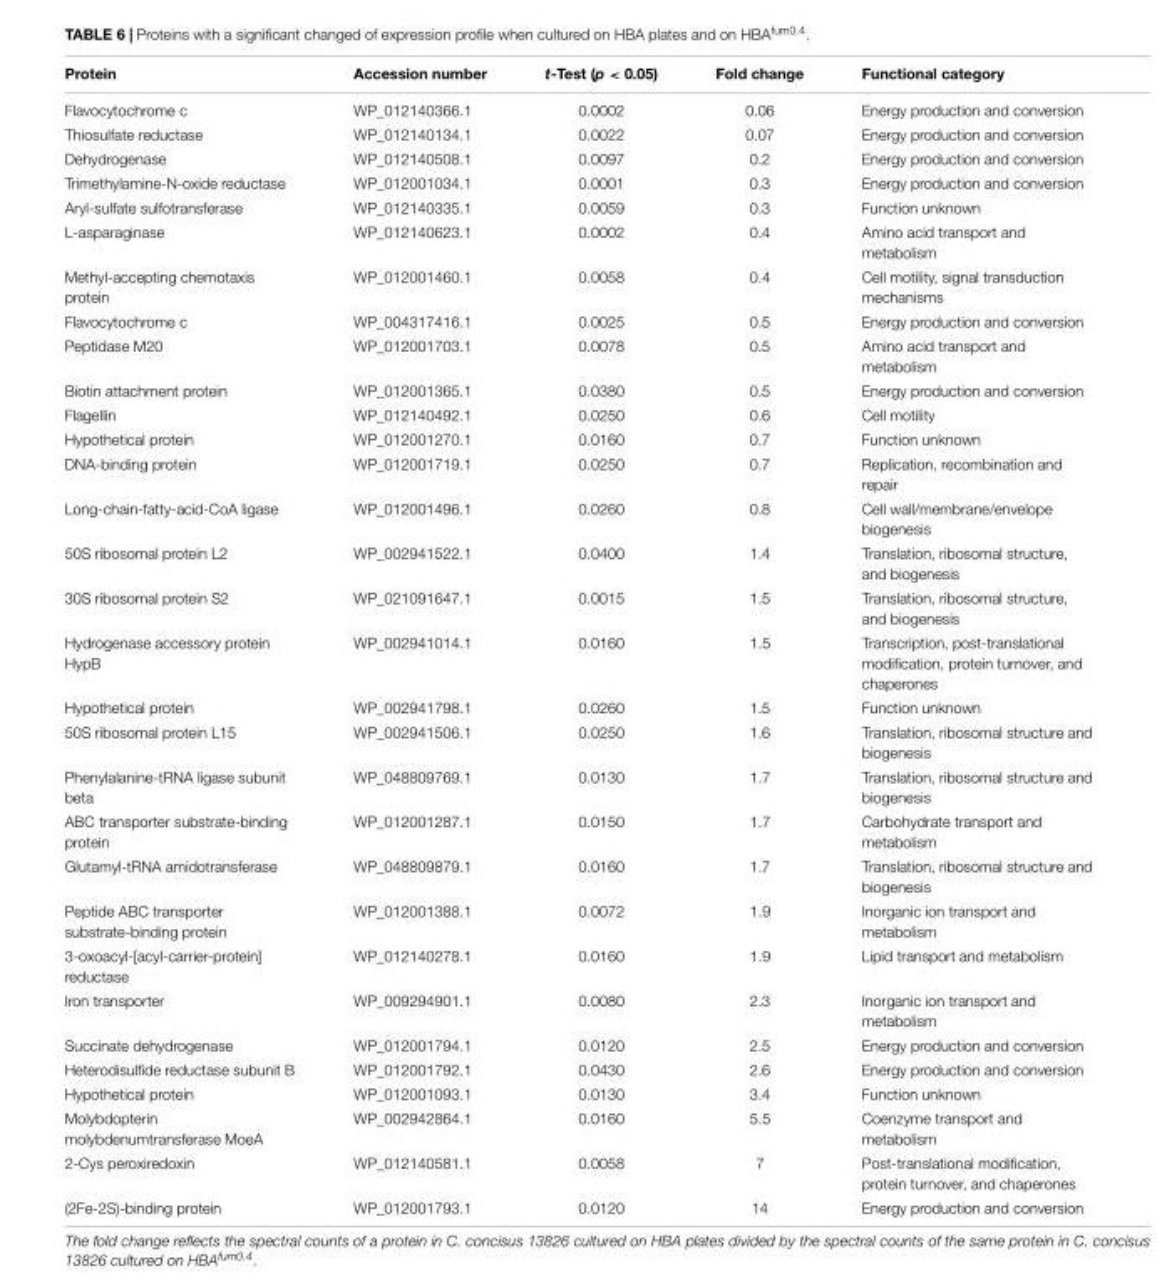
<table><thead><tr><td>Protein</td><td>Accession number</td><td>t-Test (p &lt; 0.05)</td><td>Fold change</td><td>Functional category</td></tr></thead><tbody><tr><td>Flavocytochrome c</td><td>WP_012140366.1</td><td>0.0002</td><td>0.06</td><td>Energy production and conversion</td></tr><tr><td>Thiosulfate reductase</td><td>WP_012140134.1</td><td>0.0022</td><td>0.07</td><td>Energy production and conversion</td></tr><tr><td>Dehydrogenase</td><td>WP_012140508.1</td><td>0.0097</td><td>0.2</td><td>Energy production and conversion</td></tr><tr><td>Trimethylamine-N-oxide reductase</td><td>WP_012001034.1</td><td>0.0001</td><td>0.3</td><td>Energy production and conversion</td></tr><tr><td>Aryl-sulfate sulfotransferase</td><td>WP_012140335.1</td><td>0.0059</td><td>0.3</td><td>Function unknown</td></tr><tr><td>L-asparaginase</td><td>WP_012140623.1</td><td>0.0002</td><td>0.4</td><td>Amino acid transport and metabolism</td></tr><tr><td>Methyl-accepting chemotaxis protein</td><td>WP_012001460.1</td><td>0.0058</td><td>0.4</td><td>Cell motility, signal transduction mechanisms</td></tr><tr><td>Flavocytochrome c</td><td>WP_004317416.1</td><td>0.0025</td><td>0.5</td><td>Energy production and conversion</td></tr><tr><td>Peptidase M20</td><td>WP_012001703.1</td><td>0.0078</td><td>0.5</td><td>Amino acid transport and metabolism</td></tr><tr><td>Biotin attachment protein</td><td>WP_012001365.1</td><td>0.0380</td><td>0.5</td><td>Energy production and conversion</td></tr><tr><td>Flagellin</td><td>WP_012140492.1</td><td>0.0250</td><td>0.6</td><td>Cell motility</td></tr><tr><td>Hypothetical protein</td><td>WP_012001270.1</td><td>0.0160</td><td>0.7</td><td>Function unknown</td></tr><tr><td>DNA-binding protein</td><td>WP_012001719.1</td><td>0.0250</td><td>0.7</td><td>Replication, recombination and repair</td></tr><tr><td>Long-chain-fatty-acid-CoA ligase</td><td>WP_012001496.1</td><td>0.0260</td><td>0.8</td><td>Cell wall/membrane/envelope biogenesis</td></tr><tr><td>50S ribosomal protein L2</td><td>WP_002941522.1</td><td>0.0400</td><td>1.4</td><td>Translation, ribosomal structure, and biogenesis</td></tr><tr><td>30S ribosomal protein S2</td><td>WP_021091647.1</td><td>0.0015</td><td>1.5</td><td>Translation, ribosomal structure, and biogenesis</td></tr><tr><td>Hydrogenase accessory protein HypB</td><td>WP_002941014.1</td><td>0.0160</td><td>1.5</td><td>Transcription, post-translational modification, protein turnover, and chaperones</td></tr><tr><td>Hypothetical protein</td><td>WP_002941798.1</td><td>0.0260</td><td>1.5</td><td>Function unknown</td></tr><tr><td>50S ribosomal protein L15</td><td>WP_002941506.1</td><td>0.0250</td><td>1.6</td><td>Translation, ribosomal structure and biogenesis</td></tr><tr><td>Phenylalanine-tRNA ligase subunit beta</td><td>WP_048809769.1</td><td>0.0130</td><td>1.7</td><td>Translation, ribosomal structure and biogenesis</td></tr><tr><td>ABC transporter substrate-binding protein</td><td>WP_012001287.1</td><td>0.0150</td><td>1.7</td><td>Carbohydrate transport and metabolism</td></tr><tr><td>Glutamyl-tRNA amidotransferase</td><td>WP_048809879.1</td><td>0.0160</td><td>1.7</td><td>Translation, ribosomal structure and biogenesis</td></tr><tr><td>Peptide ABC transporter substrate-binding protein</td><td>WP_012001388.1</td><td>0.0072</td><td>1.9</td><td>Inorganic ion transport and metabolism</td></tr><tr><td>3-oxoacyl-[acyl-carrier-protein] reductase</td><td>WP_012140278.1</td><td>0.0160</td><td>1.9</td><td>Lipid transport and metabolism</td></tr><tr><td>Iron transporter</td><td>WP_009294901.1</td><td>0.0080</td><td>2.3</td><td>Inorganic ion transport and metabolism</td></tr><tr><td>Succinate dehydrogenase</td><td>WP_012001794.1</td><td>0.0120</td><td>2.5</td><td>Energy production and conversion</td></tr><tr><td>Heterodisulfide reductase subunit B</td><td>WP_012001792.1</td><td>0.0430</td><td>2.6</td><td>Energy production and conversion</td></tr><tr><td>Hypothetical protein</td><td>WP_012001093.1</td><td>0.0130</td><td>3.4</td><td>Function unknown</td></tr><tr><td>Molybdopterin molybdenumtransferase MoeA</td><td>WP_002942864.1</td><td>0.0160</td><td>5.5</td><td>Coenzyme transport and metabolism</td></tr><tr><td>2-Cys peroxiredoxin</td><td>WP_012140581.1</td><td>0.0058</td><td>7</td><td>Post-translational modification, protein turnover, and chaperones</td></tr><tr><td>(2Fe-2S)-binding protein</td><td>WP_012001793.1</td><td>0.0120</td><td>14</td><td>Energy production and conversion</td></tr></tbody></table>